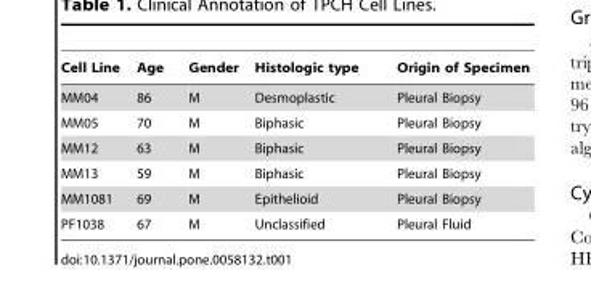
<table><thead><tr><td>Cell Line</td><td>Age</td><td>Gender</td><td>Histologic type</td><td>Origin of Specimen</td></tr></thead><tbody><tr><td>MM04</td><td>86</td><td>M</td><td>Desmoplastic</td><td>Pleural Biopsy</td></tr><tr><td>MM05</td><td>70</td><td>M</td><td>Biphasic</td><td>Pleural Biopsy</td></tr><tr><td>MM12</td><td>63</td><td>M</td><td>Biphasic</td><td>Pleural Biopsy</td></tr><tr><td>MM13</td><td>59</td><td>M</td><td>Biphasic</td><td>Pleural Biopsy</td></tr><tr><td>MM1081</td><td>69</td><td>M</td><td>Epithelioid</td><td>Pleural Biopsy</td></tr><tr><td>PF1038</td><td>67</td><td>M</td><td>Unclassified</td><td>Pleural Fluid</td></tr></tbody></table>